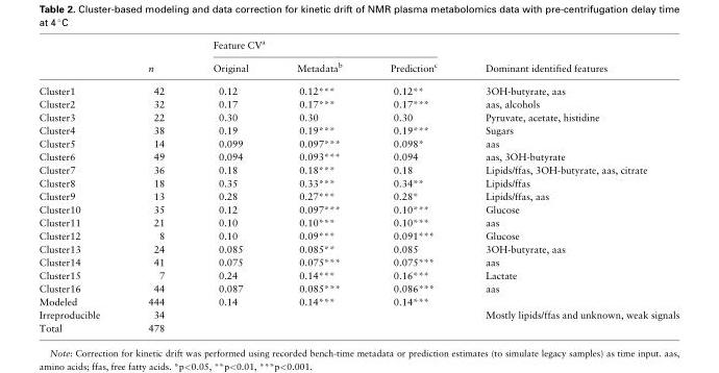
<table><thead><tr><td rowspan="2"></td><td rowspan="2">n</td><td colspan="3">Feature CV<sup>a</sup></td><td rowspan="2">Dominant identified features</td></tr><tr><td>Original</td><td>Metadata<sup>b</sup></td><td>Prediction<sup>c</sup></td></tr></thead><tbody><tr><td>Cluster1</td><td>42</td><td>0.12</td><td>0.12***</td><td>0.12**</td><td>3OH-butyrate, aas</td></tr><tr><td>Cluster2</td><td>32</td><td>0.17</td><td>0.17***</td><td>0.17***</td><td>aas, alcohols</td></tr><tr><td>Cluster3</td><td>22</td><td>0.30</td><td>0.30</td><td>0.30</td><td>Pyruvate, acetate, histidine</td></tr><tr><td>Cluster4</td><td>38</td><td>0.19</td><td>0.19***</td><td>0.19***</td><td>Sugars</td></tr><tr><td>Cluster5</td><td>14</td><td>0.099</td><td>0.097***</td><td>0.098*</td><td>aas</td></tr><tr><td>Cluster6</td><td>49</td><td>0.094</td><td>0.093***</td><td>0.094</td><td>aas, 3OH-butyrate</td></tr><tr><td>Cluster7</td><td>36</td><td>0.18</td><td>0.18***</td><td>0.18</td><td>Lipids/ffas, 3OH-butyrate, aas, citrate</td></tr><tr><td>Cluster8</td><td>18</td><td>0.35</td><td>0.33***</td><td>0.34**</td><td>Lipids/ffas</td></tr><tr><td>Cluster9</td><td>13</td><td>0.28</td><td>0.27***</td><td>0.28*</td><td>Lipids/ffas, aas</td></tr><tr><td>Cluster10</td><td>35</td><td>0.12</td><td>0.097***</td><td>0.10***</td><td>Glucose</td></tr><tr><td>Cluster11</td><td>21</td><td>0.10</td><td>0.10***</td><td>0.10***</td><td>aas</td></tr><tr><td>Cluster12</td><td>8</td><td>0.10</td><td>0.09***</td><td>0.091***</td><td>Glucose</td></tr><tr><td>Cluster13</td><td>24</td><td>0.085</td><td>0.085**</td><td>0.085</td><td>3OH-butyrate, aas</td></tr><tr><td>Cluster14</td><td>41</td><td>0.075</td><td>0.075***</td><td>0.075***</td><td>aas</td></tr><tr><td>Cluster15</td><td>7</td><td>0.24</td><td>0.14***</td><td>0.16***</td><td>Lactate</td></tr><tr><td>Cluster16</td><td>44</td><td>0.087</td><td>0.085***</td><td>0.086***</td><td>aas</td></tr><tr><td>Modeled</td><td>444</td><td>0.14</td><td>0.14***</td><td>0.14***</td><td></td></tr><tr><td>Irreproducible</td><td>34</td><td></td><td></td><td></td><td>Mostly lipids/ffas and unknown, weak signals</td></tr><tr><td>Total</td><td>478</td><td></td><td></td><td></td><td></td></tr></tbody></table>